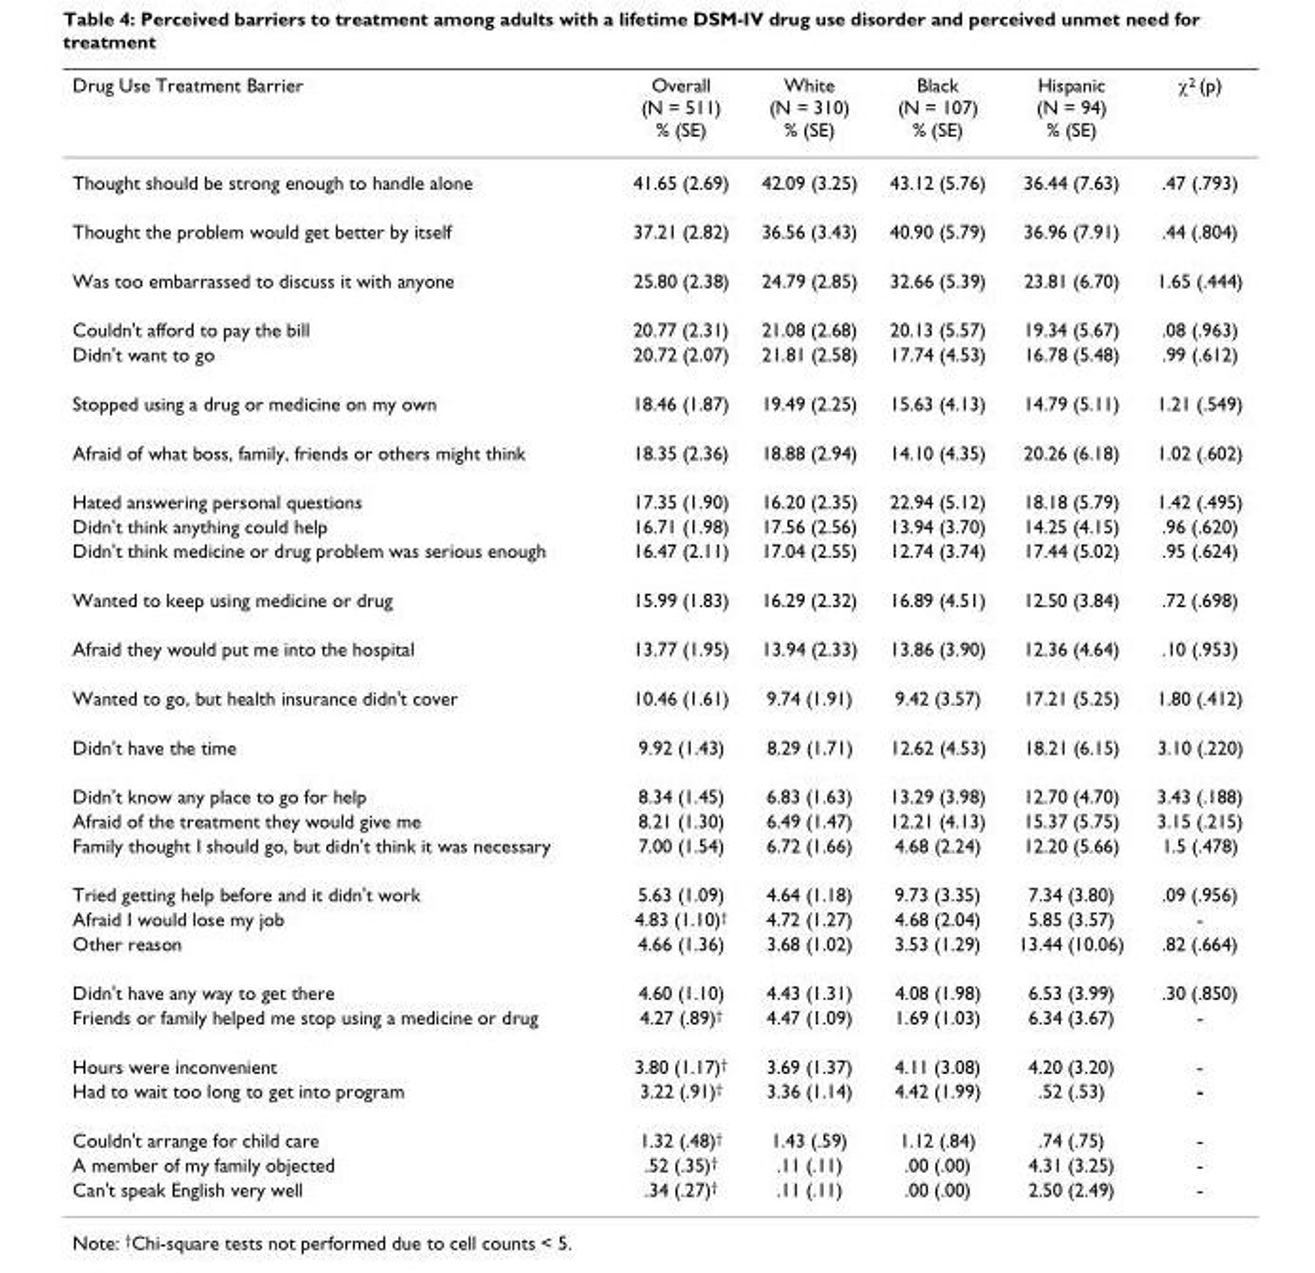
<table><thead><tr><td>Drug Use Treatment Barrier</td><td>Overall (N = 511) % (SE)</td><td>White (N = 310) % (SE)</td><td>Black (N = 107) % (SE)</td><td>Hispanic (N = 94) % (SE)</td><td>χ<sup>2</sup> (p)</td></tr></thead><tbody><tr><td>Thought should be strong enough to handle alone</td><td>41.65 (2.69)</td><td>42.09 (3.25)</td><td>43.12 (5.76)</td><td>36.44 (7.63)</td><td>.47 (.793)</td></tr><tr><td>Thought the problem would get better by itself</td><td>37.21 (2.82)</td><td>36.56 (3.43)</td><td>40.90 (5.79)</td><td>36.96 (7.91)</td><td>.44 (.804)</td></tr><tr><td>Was too embarrassed to discuss it with anyone</td><td>25.80 (2.38)</td><td>24.79 (2.85)</td><td>32.66 (5.39)</td><td>23.81 (6.70)</td><td>1.65 (.444)</td></tr><tr><td>Couldn&#x27;t afford to pay the bill</td><td>20.77 (2.31)</td><td>21.08 (2.68)</td><td>20.13 (5.57)</td><td>19.34 (5.67)</td><td>.08 (.963)</td></tr><tr><td>Didn&#x27;t want to go</td><td>20.72 (2.07)</td><td>21.81 (2.58)</td><td>17.74 (4.53)</td><td>16.78 (5.48)</td><td>.99 (.612)</td></tr><tr><td>Stopped using a drug or medicine on my own</td><td>18.46 (1.87)</td><td>19.49 (2.25)</td><td>15.63 (4.13)</td><td>14.79 (5.11)</td><td>1.21 (.549)</td></tr><tr><td>Afraid of what boss, family, friends or others might think</td><td>18.35 (2.36)</td><td>18.88 (2.94)</td><td>14.10 (4.35)</td><td>20.26 (6.18)</td><td>1.02 (.602)</td></tr><tr><td>Hated answering personal questions</td><td>17.35 (1.90)</td><td>16.20 (2.35)</td><td>22.94 (5.12)</td><td>18.18 (5.79)</td><td>1.42 (.495)</td></tr><tr><td>Didn&#x27;t think anything could help</td><td>16.71 (1.98)</td><td>17.56 (2.56)</td><td>13.94 (3.70)</td><td>14.25 (4.15)</td><td>.96 (.620)</td></tr><tr><td>Didn&#x27;t think medicine or drug problem was serious enough</td><td>16.47 (2.11)</td><td>17.04 (2.55)</td><td>12.74 (3.74)</td><td>17.44 (5.02)</td><td>.95 (.624)</td></tr><tr><td>Wanted to keep using medicine or drug</td><td>15.99 (1.83)</td><td>16.29 (2.32)</td><td>16.89 (4.51)</td><td>12.50 (3.84)</td><td>.72 (.698)</td></tr><tr><td>Afraid they would put me into the hospital</td><td>13.77 (1.95)</td><td>13.94 (2.33)</td><td>13.86 (3.90)</td><td>12.36 (4.64)</td><td>.10 (.953)</td></tr><tr><td>Wanted to go, but health insurance didn&#x27;t cover</td><td>10.46 (1.61)</td><td>9.74 (1.91)</td><td>9.42 (3.57)</td><td>17.21 (5.25)</td><td>1.80 (.412)</td></tr><tr><td>Didn&#x27;t have the time</td><td>9.92 (1.43)</td><td>8.29 (1.71)</td><td>12.62 (4.53)</td><td>18.21 (6.15)</td><td>3.10 (.220)</td></tr><tr><td>Didn&#x27;t know any place to go for help</td><td>8.34 (1.45)</td><td>6.83 (1.63)</td><td>13.29 (3.98)</td><td>12.70 (4.70)</td><td>3.43 (.188)</td></tr><tr><td>Afraid of the treatment they would give me</td><td>8.21 (1.30)</td><td>6.49 (1.47)</td><td>12.21 (4.13)</td><td>15.37 (5.75)</td><td>3.15 (.215)</td></tr><tr><td>Family thought I should go, but didn&#x27;t think it was necessary</td><td>7.00 (1.54)</td><td>6.72 (1.66)</td><td>4.68 (2.24)</td><td>12.20 (5.66)</td><td>1.5 (.478)</td></tr><tr><td>Tried getting help before and it didn&#x27;t work</td><td>5.63 (1.09)</td><td>4.64 (1.18)</td><td>9.73 (3.35)</td><td>7.34 (3.80)</td><td>.09 (.956)</td></tr><tr><td>Afraid I would lose my job</td><td>4.83 (1.10)<sup>†</sup></td><td>4.72 (1.27)</td><td>4.68 (2.04)</td><td>5.85 (3.57)</td><td>-</td></tr><tr><td>Other reason</td><td>4.66 (1.36)</td><td>3.68 (1.02)</td><td>3.53 (1.29)</td><td>13.44 (10.06)</td><td>.82 (.664)</td></tr><tr><td>Didn&#x27;t have any way to get there</td><td>4.60 (1.10)</td><td>4.43 (1.31)</td><td>4.08 (1.98)</td><td>6.53 (3.99)</td><td>.30 (.850)</td></tr><tr><td>Friends or family helped me stop using a medicine or drug</td><td>4.27 (.89)<sup>†</sup></td><td>4.47 (1.09)</td><td>1.69 (1.03)</td><td>6.34 (3.67)</td><td>-</td></tr><tr><td>Hours were inconvenient</td><td>3.80 (1.17)<sup>†</sup></td><td>3.69 (1.37)</td><td>4.11 (3.08)</td><td>4.20 (3.20)</td><td>-</td></tr><tr><td>Had to wait too long to get into program</td><td>3.22 (.91)<sup>†</sup></td><td>3.36 (1.14)</td><td>4.42 (1.99)</td><td>.52 (.53)</td><td>-</td></tr><tr><td>Couldn&#x27;t arrange for child care</td><td>1.32 (.48)<sup>†</sup></td><td>1.43 (.59)</td><td>1.12 (.84)</td><td>.74 (.75)</td><td>-</td></tr><tr><td>A member of my family objected</td><td>.52 (.35)<sup>†</sup></td><td>.11 (.11)</td><td>.00 (.00)</td><td>4.31 (3.25)</td><td>-</td></tr><tr><td>Can&#x27;t speak English very well</td><td>.34 (.27)<sup>†</sup></td><td>.11 (.11)</td><td>.00 (.00)</td><td>2.50 (2.49)</td><td>-</td></tr></tbody></table>